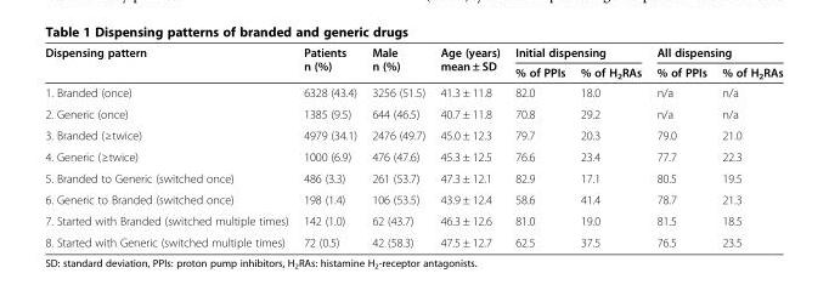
<table><thead><tr><td rowspan="2">Dispensing pattern</td><td rowspan="2">Patients n (%)</td><td rowspan="2">Male n (%)</td><td rowspan="2">Age (years) mean ± SD</td><td colspan="2">Initial dispensing</td><td colspan="2">All dispensing</td></tr><tr><td>% of PPIs</td><td>% of H<sub>2</sub>RAs</td><td>% of PPIs</td><td>% of H<sub>2</sub>RAs</td></tr></thead><tbody><tr><td>1. Branded (once)</td><td>6328 (43.4)</td><td>3256 (51.5)</td><td>41.3 ± 11.8</td><td>82.0</td><td>18.0</td><td>n/a</td><td>n/a</td></tr><tr><td>2. Generic (once)</td><td>1385 (9.5)</td><td>644 (46.5)</td><td>40.7 ± 11.8</td><td>70.8</td><td>29.2</td><td>n/a</td><td>n/a</td></tr><tr><td>3. Branded (≥twice)</td><td>4979 (34.1)</td><td>2476 (49.7)</td><td>45.0 ± 12.3</td><td>79.7</td><td>20.3</td><td>79.0</td><td>21.0</td></tr><tr><td>4. Generic (≥twice)</td><td>1000 (6.9)</td><td>476 (47.6)</td><td>45.3 ± 12.5</td><td>76.6</td><td>23.4</td><td>77.7</td><td>22.3</td></tr><tr><td>5. Branded to Generic (switched once)</td><td>486 (3.3)</td><td>261 (53.7)</td><td>47.3 ± 12.1</td><td>82.9</td><td>17.1</td><td>80.5</td><td>19.5</td></tr><tr><td>6. Generic to Branded (switched once)</td><td>198 (1.4)</td><td>106 (53.5)</td><td>43.9 ± 12.4</td><td>58.6</td><td>41.4</td><td>78.7</td><td>21.3</td></tr><tr><td>7. Started with Branded (switched multiple times)</td><td>142 (1.0)</td><td>62 (43.7)</td><td>46.3 ± 12.6</td><td>81.0</td><td>19.0</td><td>81.5</td><td>18.5</td></tr><tr><td>8. Started with Generic (switched multiple times)</td><td>72 (0.5)</td><td>42 (58.3)</td><td>47.5 ± 12.7</td><td>62.5</td><td>37.5</td><td>76.5</td><td>23.5</td></tr></tbody></table>